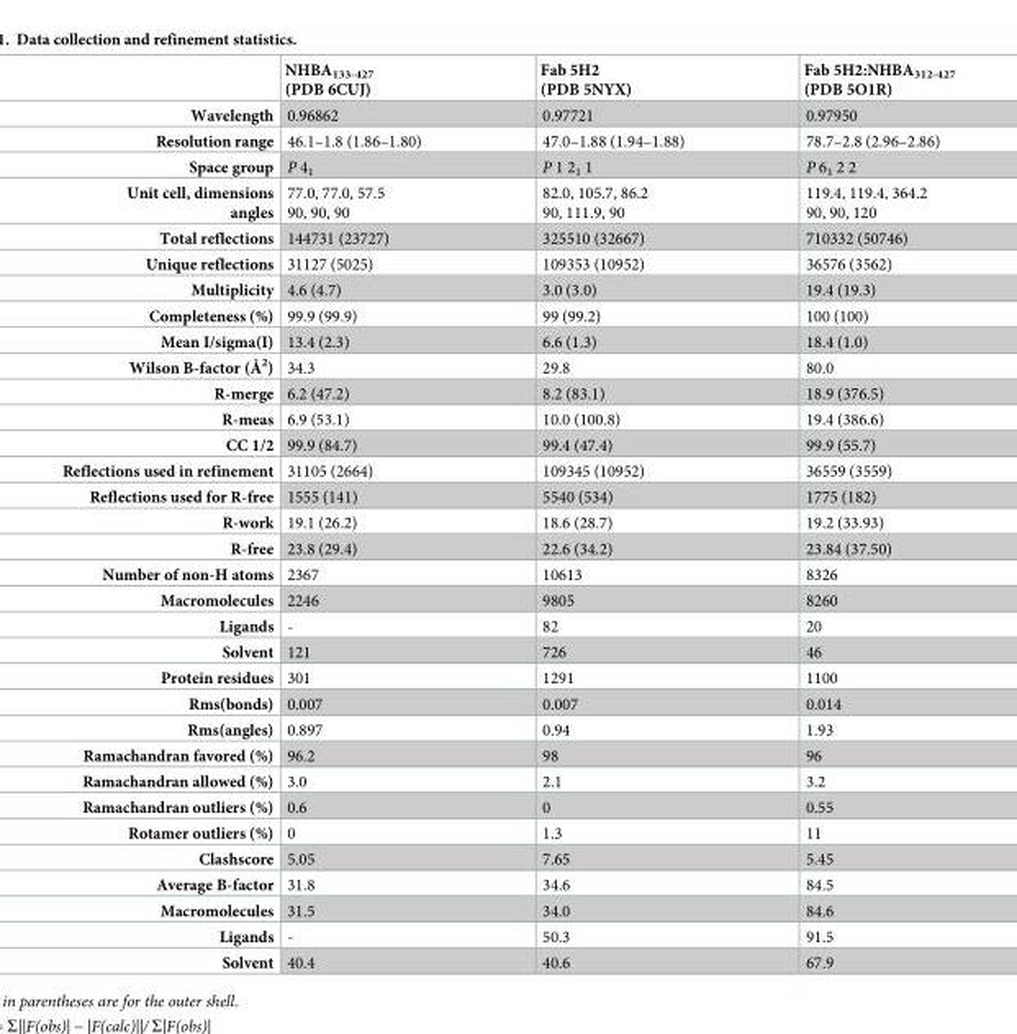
<table><thead><tr><td></td><td>NHBA<sub>133-427</sub> (PDB 6CUJ)</td><td>Fab 5H2 (PDB 5NYX)</td><td>Fab 5H2:NHBA<sub>312-427</sub> (PDB 5O1R)</td></tr></thead><tbody><tr><td>Wavelength</td><td>0.96862</td><td>0.97721</td><td>0.97950</td></tr><tr><td>Resolution range</td><td>46.1–1.8 (1.86–1.80)</td><td>47.0–1.88 (1.94–1.88)</td><td>78.7–2.8 (2.96–2.86)</td></tr><tr><td>Space group</td><td>P 4<sub>1</sub></td><td>P 1 2<sub>1</sub> 1</td><td>P 6<sub>1</sub> 2 2</td></tr><tr><td>Unit cell, dimensions angles</td><td>77.0, 77.0, 57.5 90, 90, 90</td><td>82.0, 105.7, 86.2 90, 111.9, 90</td><td>119.4, 119.4, 364.2 90, 90, 120</td></tr><tr><td>Total reflections</td><td>144731 (23727)</td><td>325510 (32667)</td><td>710332 (50746)</td></tr><tr><td>Unique reflections</td><td>31127 (5025)</td><td>109353 (10952)</td><td>36576 (3562)</td></tr><tr><td>Multiplicity</td><td>4.6 (4.7)</td><td>3.0 (3.0)</td><td>19.4 (19.3)</td></tr><tr><td>Completeness (%)</td><td>99.9 (99.9)</td><td>99 (99.2)</td><td>100 (100)</td></tr><tr><td>Mean I/sigma(I)</td><td>13.4 (2.3)</td><td>6.6 (1.3)</td><td>18.4 (1.0)</td></tr><tr><td>Wilson B-factor (Å<sup>2</sup>)</td><td>34.3</td><td>29.8</td><td>80.0</td></tr><tr><td>R-merge</td><td>6.2 (47.2)</td><td>8.2 (83.1)</td><td>18.9 (376.5)</td></tr><tr><td>R-meas</td><td>6.9 (53.1)</td><td>10.0 (100.8)</td><td>19.4 (386.6)</td></tr><tr><td>CC 1/2</td><td>99.9 (84.7)</td><td>99.4 (47.4)</td><td>99.9 (55.7)</td></tr><tr><td>Reflections used in refinement</td><td>31105 (2664)</td><td>109345 (10952)</td><td>36559 (3559)</td></tr><tr><td>Reflections used for R-free</td><td>1555 (141)</td><td>5540 (534)</td><td>1775 (182)</td></tr><tr><td>R-work</td><td>19.1 (26.2)</td><td>18.6 (28.7)</td><td>19.2 (33.93)</td></tr><tr><td>R-free</td><td>23.8 (29.4)</td><td>22.6 (34.2)</td><td>23.84 (37.50)</td></tr><tr><td>Number of non-H atoms</td><td>2367</td><td>10613</td><td>8326</td></tr><tr><td>Macromolecules</td><td>2246</td><td>9805</td><td>8260</td></tr><tr><td>Ligands</td><td>-</td><td>82</td><td>20</td></tr><tr><td>Solvent</td><td>121</td><td>726</td><td>46</td></tr><tr><td>Protein residues</td><td>301</td><td>1291</td><td>1100</td></tr><tr><td>Rms(bonds)</td><td>0.007</td><td>0.007</td><td>0.014</td></tr><tr><td>Rms(angles)</td><td>0.897</td><td>0.94</td><td>1.93</td></tr><tr><td>Ramachandran favored (%)</td><td>96.2</td><td>98</td><td>96</td></tr><tr><td>Ramachandran allowed (%)</td><td>3.0</td><td>2.1</td><td>3.2</td></tr><tr><td>Ramachandran outliers (%)</td><td>0.6</td><td>0</td><td>0.55</td></tr><tr><td>Rotamer outliers (%)</td><td>0</td><td>1.3</td><td>11</td></tr><tr><td>Clashscore</td><td>5.05</td><td>7.65</td><td>5.45</td></tr><tr><td>Average B-factor</td><td>31.8</td><td>34.6</td><td>84.5</td></tr><tr><td>Macromolecules</td><td>31.5</td><td>34.0</td><td>84.6</td></tr><tr><td>Ligands</td><td>-</td><td>50.3</td><td>91.5</td></tr><tr><td>Solvent</td><td>40.4</td><td>40.6</td><td>67.9</td></tr></tbody></table>